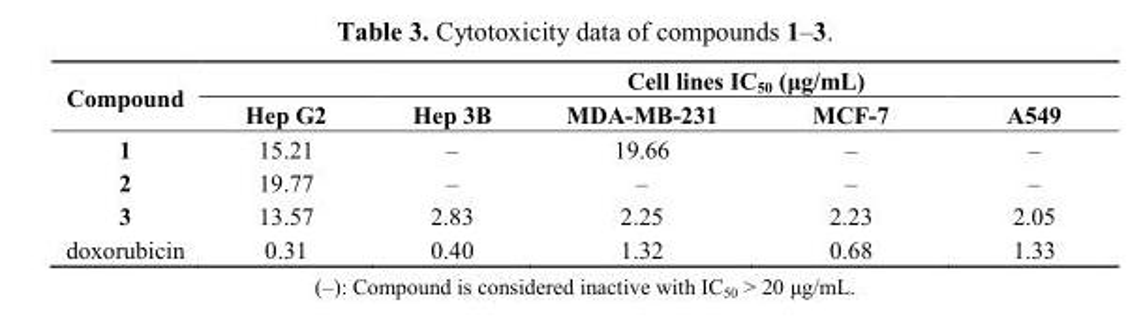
<table><thead><tr><td rowspan="2">Compound</td><td rowspan="2">Hep G2</td><td colspan="4">Cell lines IC<sub>50</sub> (μg/mL)</td></tr><tr><td>Hep 3B</td><td>MDA-MB-231</td><td>MCF-7</td><td>A549</td></tr></thead><tbody><tr><td>1</td><td>15.21</td><td>–</td><td>19.66</td><td>–</td><td>–</td></tr><tr><td>2</td><td>19.77</td><td>–</td><td>–</td><td>–</td><td>–</td></tr><tr><td>3</td><td>13.57</td><td>2.83</td><td>2.25</td><td>2.23</td><td>2.05</td></tr><tr><td>doxorubicin</td><td>0.31</td><td>0.40</td><td>1.32</td><td>0.68</td><td>1.33</td></tr></tbody></table>